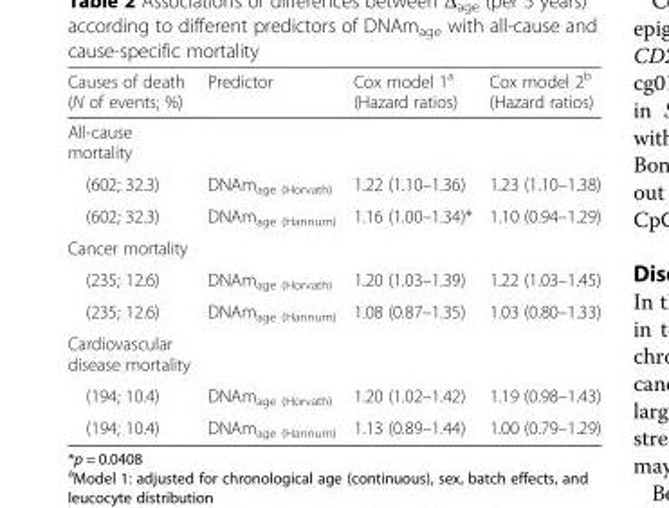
<table><thead><tr><td>Causes of death (N of events; %)</td><td>Predictor</td><td>Cox model 1<sup>a</sup> (Hazard ratios)</td><td>Cox model 2<sup>b</sup> (Hazard ratios)</td></tr></thead><tbody><tr><td colspan="4">All-cause mortality</td></tr><tr><td>(602; 32.3)</td><td>DNAm<sub>age (Horvath)</sub></td><td>1.22 (1.10–1.36)</td><td>1.23 (1.10–1.38)</td></tr><tr><td>(602; 32.3)</td><td>DNAm<sub>age (Hannum)</sub></td><td>1.16 (1.00–1.34)*</td><td>1.10 (0.94–1.29)</td></tr><tr><td colspan="4">Cancer mortality</td></tr><tr><td>(235; 12.6)</td><td>DNAm<sub>age (Horvath)</sub></td><td>1.20 (1.03–1.39)</td><td>1.22 (1.03–1.45)</td></tr><tr><td>(235; 12.6)</td><td>DNAm<sub>age (Hannum)</sub></td><td>1.08 (0.87–1.35)</td><td>1.03 (0.80–1.33)</td></tr><tr><td colspan="4">Cardiovascular disease mortality</td></tr><tr><td>(194; 10.4)</td><td>DNAm<sub>age (Horvath)</sub></td><td>1.20 (1.02–1.42)</td><td>1.19 (0.98–1.43)</td></tr><tr><td>(194; 10.4)</td><td>DNAm<sub>age (Hannum)</sub></td><td>1.13 (0.89–1.44)</td><td>1.00 (0.79–1.29)</td></tr></tbody></table>